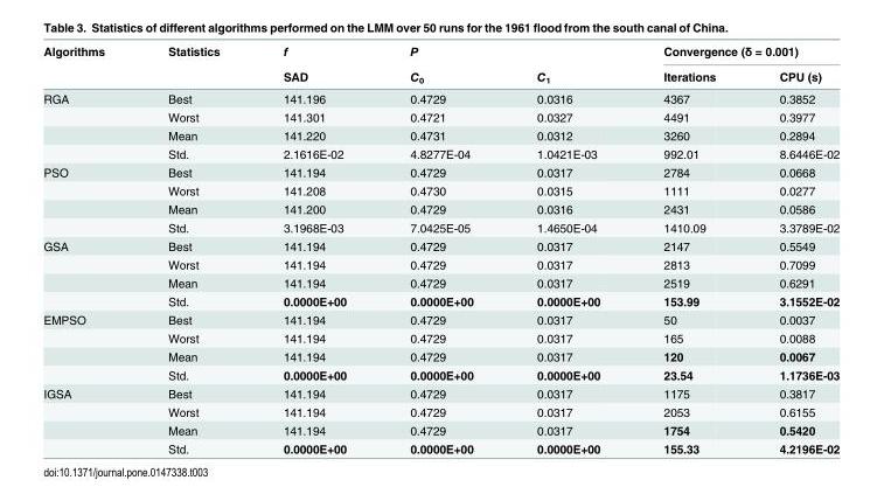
<table><thead><tr><td rowspan="2">Algorithms</td><td rowspan="2">Statistics</td><td rowspan="2">f SAD</td><td rowspan="2">P C<sub>0</sub></td><td rowspan="2">C<sub>1</sub></td><td colspan="2">Convergence (δ = 0.001)</td></tr><tr><td>Iterations</td><td>CPU (s)</td></tr></thead><tbody><tr><td rowspan="4">RGA</td><td>Best</td><td>141.196</td><td>0.4729</td><td>0.0316</td><td>4367</td><td>0.3852</td></tr><tr><td>Worst</td><td>141.301</td><td>0.4721</td><td>0.0327</td><td>4491</td><td>0.3977</td></tr><tr><td>Mean</td><td>141.220</td><td>0.4731</td><td>0.0312</td><td>3260</td><td>0.2894</td></tr><tr><td>Std.</td><td>2.1616E-02</td><td>4.8277E-04</td><td>1.0421E-03</td><td>992.01</td><td>8.6446E-02</td></tr><tr><td rowspan="4">PSO</td><td>Best</td><td>141.194</td><td>0.4729</td><td>0.0317</td><td>2784</td><td>0.0668</td></tr><tr><td>Worst</td><td>141.208</td><td>0.4730</td><td>0.0315</td><td>1111</td><td>0.0277</td></tr><tr><td>Mean</td><td>141.200</td><td>0.4729</td><td>0.0316</td><td>2431</td><td>0.0586</td></tr><tr><td>Std.</td><td>3.1968E-03</td><td>7.0425E-05</td><td>1.4650E-04</td><td>1410.09</td><td>3.3789E-02</td></tr><tr><td rowspan="4">GSA</td><td>Best</td><td>141.194</td><td>0.4729</td><td>0.0317</td><td>2147</td><td>0.5549</td></tr><tr><td>Worst</td><td>141.194</td><td>0.4729</td><td>0.0317</td><td>2813</td><td>0.7099</td></tr><tr><td>Mean</td><td>141.194</td><td>0.4729</td><td>0.0317</td><td>2519</td><td>0.6291</td></tr><tr><td>Std.</td><td>0.0000E+00</td><td>0.0000E+00</td><td>0.0000E+00</td><td>153.99</td><td>3.1552E-02</td></tr><tr><td rowspan="4">EMPSO</td><td>Best</td><td>141.194</td><td>0.4729</td><td>0.0317</td><td>50</td><td>0.0037</td></tr><tr><td>Worst</td><td>141.194</td><td>0.4729</td><td>0.0317</td><td>165</td><td>0.0088</td></tr><tr><td>Mean</td><td>141.194</td><td>0.4729</td><td>0.0317</td><td>120</td><td>0.0067</td></tr><tr><td>Std.</td><td>0.0000E+00</td><td>0.0000E+00</td><td>0.0000E+00</td><td>23.54</td><td>1.1736E-03</td></tr><tr><td rowspan="4">IGSA</td><td>Best</td><td>141.194</td><td>0.4729</td><td>0.0317</td><td>1175</td><td>0.3817</td></tr><tr><td>Worst</td><td>141.194</td><td>0.4729</td><td>0.0317</td><td>2053</td><td>0.6155</td></tr><tr><td>Mean</td><td>141.194</td><td>0.4729</td><td>0.0317</td><td>1754</td><td>0.5420</td></tr><tr><td>Std.</td><td>0.0000E+00</td><td>0.0000E+00</td><td>0.0000E+00</td><td>155.33</td><td>4.2196E-02</td></tr></tbody></table>